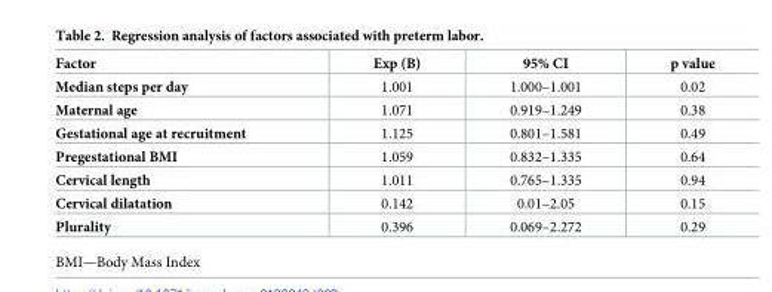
<table><thead><tr><td>Factor</td><td>Exp (B)</td><td>95% CI</td><td>p value</td></tr></thead><tbody><tr><td>Median steps per day</td><td>1.001</td><td>1.000–1.001</td><td>0.02</td></tr><tr><td>Maternal age</td><td>1.071</td><td>0.919–1.249</td><td>0.38</td></tr><tr><td>Gestational age at recruitment</td><td>1.125</td><td>0.801–1.581</td><td>0.49</td></tr><tr><td>Pregestational BMI</td><td>1.059</td><td>0.832–1.335</td><td>0.64</td></tr><tr><td>Cervical length</td><td>1.011</td><td>0.765–1.335</td><td>0.94</td></tr><tr><td>Cervical dilatation</td><td>0.142</td><td>0.01–2.05</td><td>0.15</td></tr><tr><td>Plurality</td><td>0.396</td><td>0.069–2.272</td><td>0.29</td></tr></tbody></table>